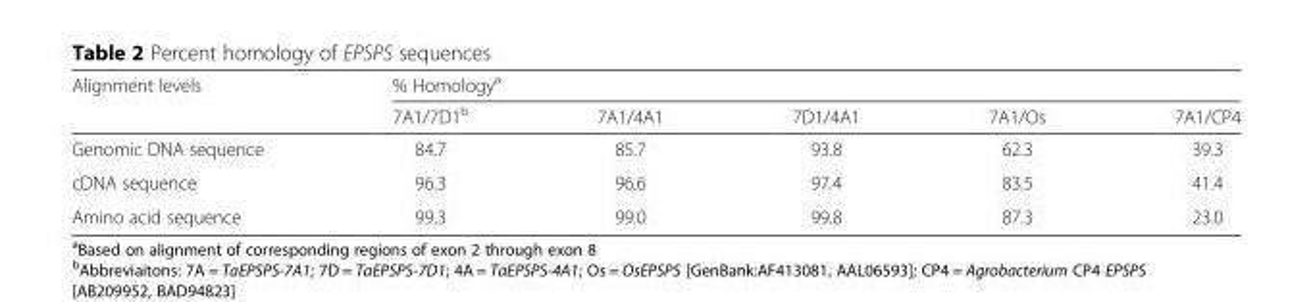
<table><thead><tr><td rowspan="2">Alignment levels</td><td colspan="5">% Homology<sup>a</sup></td></tr><tr><td>7A1/7D1<sup>b</sup></td><td>7A1/4A1</td><td>7D1/4A1</td><td>7A1/Os</td><td>7A1/CP4</td></tr></thead><tbody><tr><td>Genomic DNA sequence</td><td>84.7</td><td>85.7</td><td>93.8</td><td>62.3</td><td>39.3</td></tr><tr><td>cDNA sequence</td><td>96.3</td><td>96.6</td><td>97.4</td><td>83.5</td><td>41.4</td></tr><tr><td>Amino acid sequence</td><td>99.3</td><td>99.0</td><td>99.8</td><td>87.3</td><td>23.0</td></tr></tbody></table>